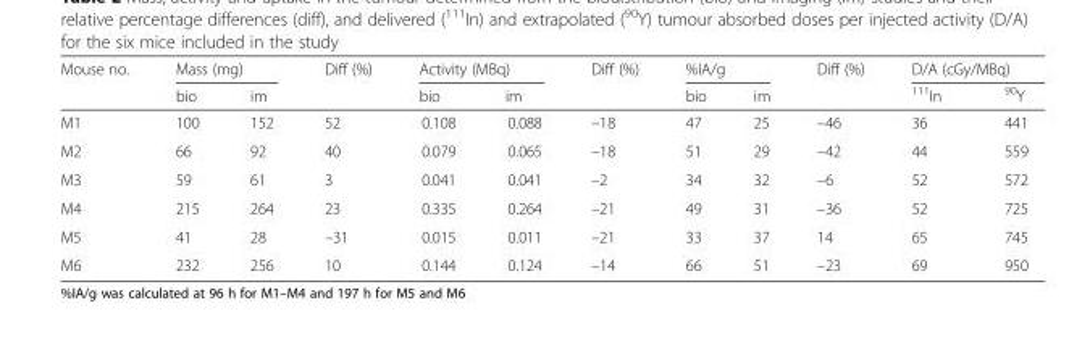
<table><thead><tr><td rowspan="2">Mouse no.</td><td colspan="2">Mass (mg)</td><td rowspan="2">Diff (%)</td><td colspan="2">Activity (MBq)</td><td rowspan="2">Diff (%)</td><td colspan="2">%IA/g</td><td rowspan="2">Diff (%)</td><td colspan="2">D/A (cGy/MBq)</td></tr><tr><td>bio</td><td>im</td><td>bio</td><td>im</td><td>bio</td><td>im</td><td><sup>111</sup>In</td><td><sup>90</sup>Y</td></tr></thead><tbody><tr><td>M1</td><td>100</td><td>152</td><td>52</td><td>0.108</td><td>0.088</td><td>–18</td><td>47</td><td>25</td><td>–46</td><td>36</td><td>441</td></tr><tr><td>M2</td><td>66</td><td>92</td><td>40</td><td>0.079</td><td>0.065</td><td>–18</td><td>51</td><td>29</td><td>–42</td><td>44</td><td>559</td></tr><tr><td>M3</td><td>59</td><td>61</td><td>3</td><td>0.041</td><td>0.041</td><td>–2</td><td>34</td><td>32</td><td>–6</td><td>52</td><td>572</td></tr><tr><td>M4</td><td>215</td><td>264</td><td>23</td><td>0.335</td><td>0.264</td><td>–21</td><td>49</td><td>31</td><td>–36</td><td>52</td><td>725</td></tr><tr><td>M5</td><td>41</td><td>28</td><td>–31</td><td>0.015</td><td>0.011</td><td>–21</td><td>33</td><td>37</td><td>14</td><td>65</td><td>745</td></tr><tr><td>M6</td><td>232</td><td>256</td><td>10</td><td>0.144</td><td>0.124</td><td>–14</td><td>66</td><td>51</td><td>–23</td><td>69</td><td>950</td></tr></tbody></table>